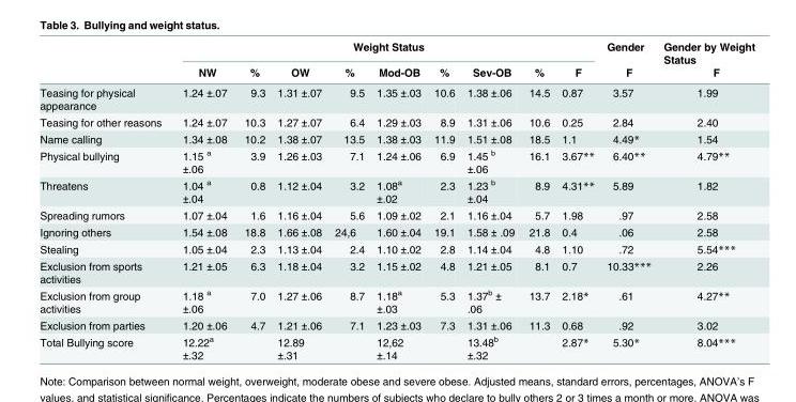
<table><thead><tr><td rowspan="2"></td><td colspan="9">Weight Status</td><td rowspan="2">Gender F</td><td rowspan="2">Gender by Weight Status F</td></tr><tr><td>NW</td><td>%</td><td>OW</td><td>%</td><td>Mod-OB</td><td>%</td><td>Sev-OB</td><td>%</td><td>F</td></tr></thead><tbody><tr><td>Teasing for physical appearance</td><td>1.24 ±.07</td><td>9.3</td><td>1.31 ±.07</td><td>9.5</td><td>1.35 ±.03</td><td>10.6</td><td>1.38 ±.06</td><td>14.5</td><td>0.87</td><td>3.57</td><td>1.99</td></tr><tr><td>Teasing for other reasons</td><td>1.24 ±.07</td><td>10.3</td><td>1.27 ±.07</td><td>6.4</td><td>1.29 ±.03</td><td>8.9</td><td>1.31 ±.06</td><td>10.6</td><td>0.25</td><td>2.84</td><td>2.40</td></tr><tr><td>Name calling</td><td>1.34 ±.08</td><td>10.2</td><td>1.38 ±.07</td><td>13.5</td><td>1.38 ±.03</td><td>11.9</td><td>1.51 ±.08</td><td>18.5</td><td>1.1</td><td>4.49*</td><td>1.54</td></tr><tr><td>Physical bullying</td><td>1.15 <sup>a</sup> ±.06</td><td>3.9</td><td>1.26 ±.03</td><td>7.1</td><td>1.24 ±.06</td><td>6.9</td><td>1.45 <sup>b</sup> ±.06</td><td>16.1</td><td>3.67**</td><td>6.40**</td><td>4.79**</td></tr><tr><td>Threatens</td><td>1.04 <sup>a</sup> ±.04</td><td>0.8</td><td>1.12 ±.04</td><td>3.2</td><td>1.08<sup>a</sup> ±.02</td><td>2.3</td><td>1.23 <sup>b</sup> ±.04</td><td>8.9</td><td>4.31**</td><td>5.89</td><td>1.82</td></tr><tr><td>Spreading rumors</td><td>1.07 ±.04</td><td>1.6</td><td>1.16 ±.04</td><td>5.6</td><td>1.09 ±.02</td><td>2.1</td><td>1.16 ±.04</td><td>5.7</td><td>1.98</td><td>.97</td><td>2.58</td></tr><tr><td>Ignoring others</td><td>1.54 ±.08</td><td>18.8</td><td>1.66 ±.08</td><td>24,6</td><td>1.60 ±.04</td><td>19.1</td><td>1.58 ± .09</td><td>21.8</td><td>0.4</td><td>.06</td><td>2.58</td></tr><tr><td>Stealing</td><td>1.05 ±.04</td><td>2.3</td><td>1.13 ±.04</td><td>2.4</td><td>1.10 ±.02</td><td>2.8</td><td>1.14 ±.04</td><td>4.8</td><td>1.10</td><td>.72</td><td>5.54***</td></tr><tr><td>Exclusion from sports activities</td><td>1.21 ±.05</td><td>6.3</td><td>1.18 ±.04</td><td>3.2</td><td>1.15 ±.02</td><td>4.8</td><td>1.21 ±.05</td><td>8.1</td><td>0.7</td><td>10.33***</td><td>2.26</td></tr><tr><td>Exclusion from group activities</td><td>1.18 <sup>a</sup> ±.06</td><td>7.0</td><td>1.27 ±.06</td><td>8.7</td><td>1.18<sup>a</sup> ±.03</td><td>5.3</td><td>1.37<sup>b</sup> ± .06</td><td>13.7</td><td>2.18*</td><td>.61</td><td>4.27**</td></tr><tr><td>Exclusion from parties</td><td>1.20 ±.06</td><td>4.7</td><td>1.21 ±.06</td><td>7.1</td><td>1.23 ±.03</td><td>7.3</td><td>1.31 ±.06</td><td>11.3</td><td>0.68</td><td>.92</td><td>3.02</td></tr><tr><td>Total Bullying score</td><td>12.22<sup>a</sup> ±.32</td><td></td><td>12.89 ±.31</td><td></td><td>12,62 ±.14</td><td></td><td>13.48<sup>b</sup> ±.32</td><td></td><td>2.87*</td><td>5.30*</td><td>8.04***</td></tr></tbody></table>